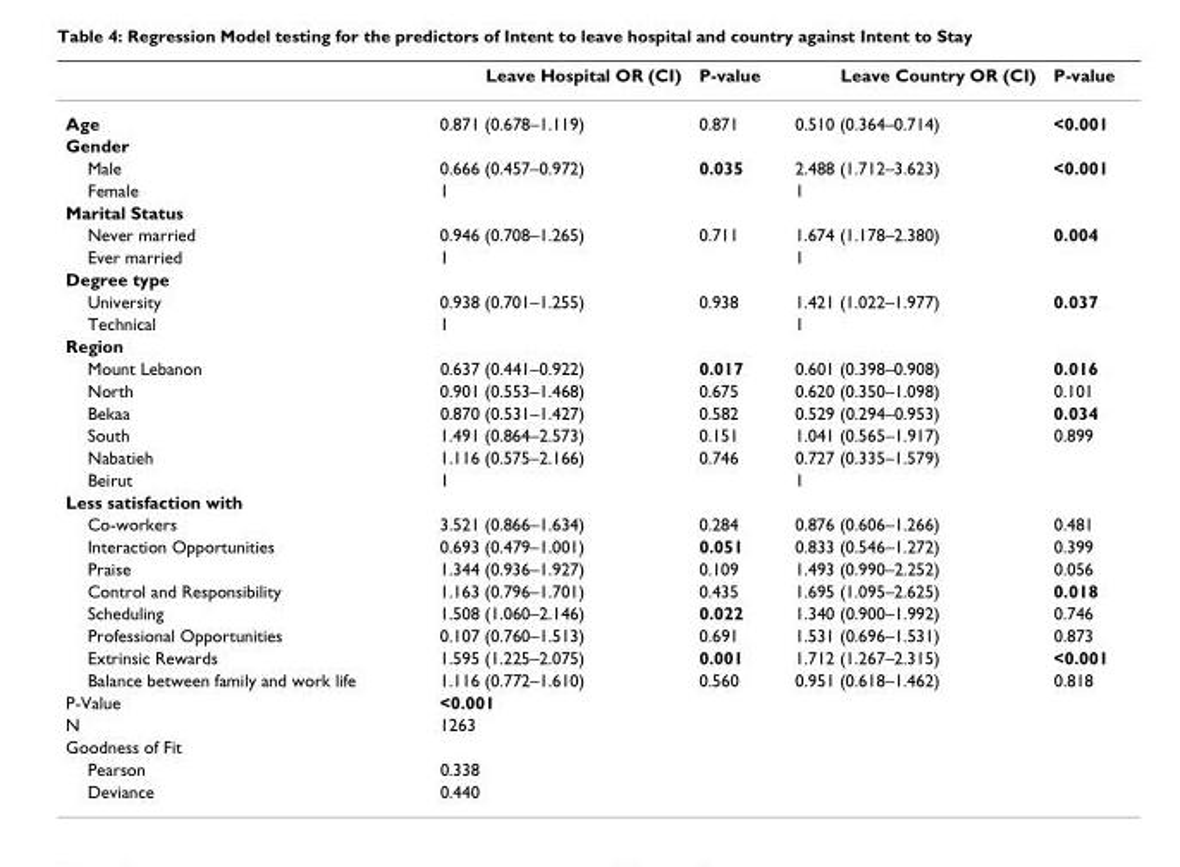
<table><thead><tr><td></td><td>Leave Hospital OR (CI)</td><td>P-value</td><td>Leave Country OR (CI)</td><td>P-value</td></tr></thead><tbody><tr><td>Age</td><td>0.871 (0.678–1.119)</td><td>0.871</td><td>0.510 (0.364–0.714)</td><td>&lt;0.001</td></tr><tr><td colspan="5">Gender</td></tr><tr><td>Male</td><td>0.666 (0.457–0.972)</td><td>0.035</td><td>2.488 (1.712–3.623)</td><td>&lt;0.001</td></tr><tr><td>Female</td><td>1</td><td></td><td>1</td><td></td></tr><tr><td colspan="5">Marital Status</td></tr><tr><td>Never married</td><td>0.946 (0.708–1.265)</td><td>0.711</td><td>1.674 (1.178–2.380)</td><td>0.004</td></tr><tr><td>Ever married</td><td>1</td><td></td><td>1</td><td></td></tr><tr><td colspan="5">Degree type</td></tr><tr><td>University</td><td>0.938 (0.701–1.255)</td><td>0.938</td><td>1.421 (1.022–1.977)</td><td>0.037</td></tr><tr><td>Technical</td><td>1</td><td></td><td>1</td><td></td></tr><tr><td colspan="5">Region</td></tr><tr><td>Mount Lebanon</td><td>0.637 (0.441–0.922)</td><td>0.017</td><td>0.601 (0.398–0.908)</td><td>0.016</td></tr><tr><td>North</td><td>0.901 (0.553–1.468)</td><td>0.675</td><td>0.620 (0.350–1.098)</td><td>0.101</td></tr><tr><td>Bekaa</td><td>0.870 (0.531–1.427)</td><td>0.582</td><td>0.529 (0.294–0.953)</td><td>0.034</td></tr><tr><td>South</td><td>1.491 (0.864–2.573)</td><td>0.151</td><td>1.041 (0.565–1.917)</td><td>0.899</td></tr><tr><td>Nabatieh</td><td>1.116 (0.575–2.166)</td><td>0.746</td><td>0.727 (0.335–1.579)</td><td></td></tr><tr><td>Beirut</td><td>1</td><td></td><td>1</td><td></td></tr><tr><td colspan="5">Less satisfaction with</td></tr><tr><td>Co-workers</td><td>3.521 (0.866–1.634)</td><td>0.284</td><td>0.876 (0.606–1.266)</td><td>0.481</td></tr><tr><td>Interaction Opportunities</td><td>0.693 (0.479–1.001)</td><td>0.051</td><td>0.833 (0.546–1.272)</td><td>0.399</td></tr><tr><td>Praise</td><td>1.344 (0.936–1.927)</td><td>0.109</td><td>1.493 (0.990–2.252)</td><td>0.056</td></tr><tr><td>Control and Responsibility</td><td>1.163 (0.796–1.701)</td><td>0.435</td><td>1.695 (1.095–2.625)</td><td>0.018</td></tr><tr><td>Scheduling</td><td>1.508 (1.060–2.146)</td><td>0.022</td><td>1.340 (0.900–1.992)</td><td>0.746</td></tr><tr><td>Professional Opportunities</td><td>0.107 (0.760–1.513)</td><td>0.691</td><td>1.531 (0.696–1.531)</td><td>0.873</td></tr><tr><td>Extrinsic Rewards</td><td>1.595 (1.225–2.075)</td><td>0.001</td><td>1.712 (1.267–2.315)</td><td>&lt;0.001</td></tr><tr><td>Balance between family and work life</td><td>1.116 (0.772–1.610)</td><td>0.560</td><td>0.951 (0.618–1.462)</td><td>0.818</td></tr><tr><td>P-Value</td><td>&lt;0.001</td><td></td><td></td><td></td></tr><tr><td>N</td><td>1263</td><td></td><td></td><td></td></tr><tr><td colspan="5">Goodness of Fit</td></tr><tr><td>Pearson</td><td>0.338</td><td></td><td></td><td></td></tr><tr><td>Deviance</td><td>0.440</td><td></td><td></td><td></td></tr></tbody></table>